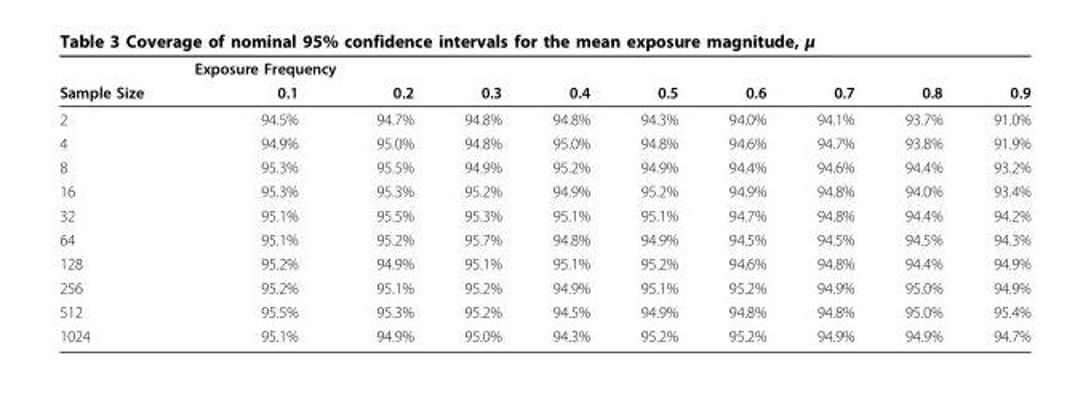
<table><thead><tr><td rowspan="2">Sample Size</td><td colspan="2">Exposure Frequency</td><td rowspan="2">0.3</td><td rowspan="2">0.4</td><td rowspan="2">0.5</td><td rowspan="2">0.6</td><td rowspan="2">0.7</td><td rowspan="2">0.8</td><td rowspan="2">0.9</td></tr><tr><td>0.1</td><td>0.2</td></tr></thead><tbody><tr><td>2</td><td>94.5%</td><td>94.7%</td><td>94.8%</td><td>94.8%</td><td>94.3%</td><td>94.0%</td><td>94.1%</td><td>93.7%</td><td>91.0%</td></tr><tr><td>4</td><td>94.9%</td><td>95.0%</td><td>94.8%</td><td>95.0%</td><td>94.8%</td><td>94.6%</td><td>94.7%</td><td>93.8%</td><td>91.9%</td></tr><tr><td>8</td><td>95.3%</td><td>95.5%</td><td>94.9%</td><td>95.2%</td><td>94.9%</td><td>94.4%</td><td>94.6%</td><td>94.4%</td><td>93.2%</td></tr><tr><td>16</td><td>95.3%</td><td>95.3%</td><td>95.2%</td><td>94.9%</td><td>95.2%</td><td>94.9%</td><td>94.8%</td><td>94.0%</td><td>93.4%</td></tr><tr><td>32</td><td>95.1%</td><td>95.5%</td><td>95.3%</td><td>95.1%</td><td>95.1%</td><td>94.7%</td><td>94.8%</td><td>94.4%</td><td>94.2%</td></tr><tr><td>64</td><td>95.1%</td><td>95.2%</td><td>95.7%</td><td>94.8%</td><td>94.9%</td><td>94.5%</td><td>94.5%</td><td>94.5%</td><td>94.3%</td></tr><tr><td>128</td><td>95.2%</td><td>94.9%</td><td>95.1%</td><td>95.1%</td><td>95.2%</td><td>94.6%</td><td>94.8%</td><td>94.4%</td><td>94.9%</td></tr><tr><td>256</td><td>95.2%</td><td>95.1%</td><td>95.2%</td><td>94.9%</td><td>95.1%</td><td>95.2%</td><td>94.9%</td><td>95.0%</td><td>94.9%</td></tr><tr><td>512</td><td>95.5%</td><td>95.3%</td><td>95.2%</td><td>94.5%</td><td>94.9%</td><td>94.8%</td><td>94.8%</td><td>95.0%</td><td>95.4%</td></tr><tr><td>1024</td><td>95.1%</td><td>94.9%</td><td>95.0%</td><td>94.3%</td><td>95.2%</td><td>95.2%</td><td>94.9%</td><td>94.9%</td><td>94.7%</td></tr></tbody></table>